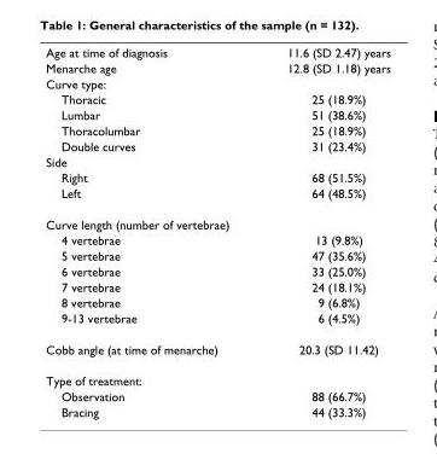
<table><tbody><tr><td>Age at time of diagnosis</td><td>11.6 (SD 2.47) years</td></tr><tr><td>Menarche age</td><td>12.8 (SD 1.18) years</td></tr><tr><td colspan="2">Curve type:</td></tr><tr><td>Thoracic</td><td>25 (18.9%)</td></tr><tr><td>Lumbar</td><td>51 (38.6%)</td></tr><tr><td>Thoracolumbar</td><td>25 (18.9%)</td></tr><tr><td>Double curves</td><td>31 (23.4%)</td></tr><tr><td colspan="2">Side</td></tr><tr><td>Right</td><td>68 (51.5%)</td></tr><tr><td>Left</td><td>64 (48.5%)</td></tr><tr><td colspan="2">Curve length (number of vertebrae)</td></tr><tr><td>4 vertebrae</td><td>13 (9.8%)</td></tr><tr><td>5 vertebrae</td><td>47 (35.6%)</td></tr><tr><td>6 vertebrae</td><td>33 (25.0%)</td></tr><tr><td>7 vertebrae</td><td>24 (18.1%)</td></tr><tr><td>8 vertebrae</td><td>9 (6.8%)</td></tr><tr><td>9-13 vertebrae</td><td>6 (4.5%)</td></tr><tr><td>Cobb angle (at time of menarche)</td><td>20.3 (SD 11.42)</td></tr><tr><td colspan="2">Type of treatment:</td></tr><tr><td>Observation</td><td>88 (66.7%)</td></tr><tr><td>Bracing</td><td>44 (33.3%)</td></tr></tbody></table>